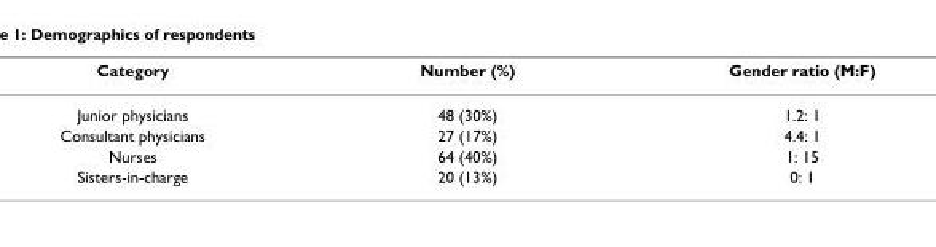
<table><thead><tr><td>Category</td><td>Number (%)</td><td>Gender ratio (M:F)</td></tr></thead><tbody><tr><td>Junior physicians</td><td>48 (30%)</td><td>1.2: 1</td></tr><tr><td>Consultant physicians</td><td>27 (17%)</td><td>4.4: 1</td></tr><tr><td>Nurses</td><td>64 (40%)</td><td>1: 15</td></tr><tr><td>Sisters-in-charge</td><td>20 (13%)</td><td>0: 1</td></tr></tbody></table>